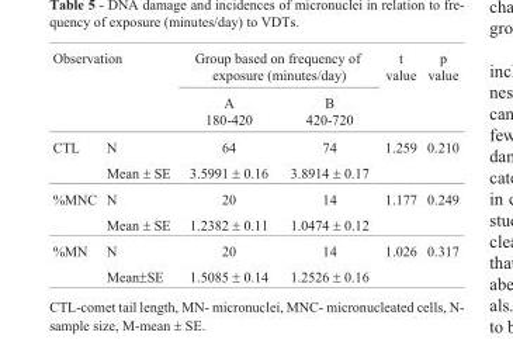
<table><thead><tr><td colspan="2">Observation</td><td colspan="2">Group based on frequency of exposure (minutes/day)</td><td rowspan="2">t value</td><td rowspan="2">p value</td></tr><tr><td></td><td></td><td>A 180-420</td><td>B 420-720</td></tr></thead><tbody><tr><td rowspan="2">CTL</td><td>N</td><td>64</td><td>74</td><td>1.259</td><td>0.210</td></tr><tr><td>Mean ± SE</td><td>3.5991 ± 0.16</td><td>3.8914 ± 0.17</td><td></td><td></td></tr><tr><td rowspan="2">%MNC</td><td>N</td><td>20</td><td>14</td><td>1.177</td><td>0.249</td></tr><tr><td>Mean ± SE</td><td>1.2382 ± 0.11</td><td>1.0474 ± 0.12</td><td></td><td></td></tr><tr><td rowspan="2">%MN</td><td>N</td><td>20</td><td>14</td><td>1.026</td><td>0.317</td></tr><tr><td>Mean±SE</td><td>1.5085 ± 0.14</td><td>1.2526 ± 0.16</td><td></td><td></td></tr></tbody></table>